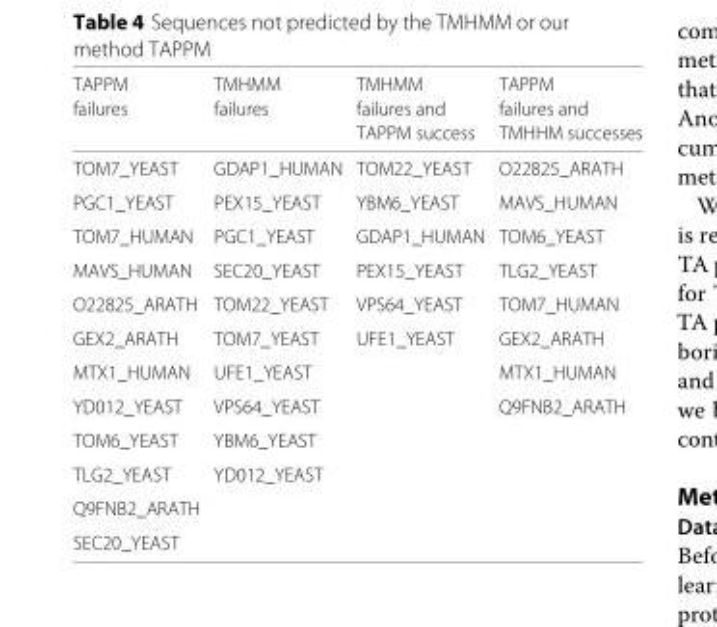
<table><thead><tr><td rowspan="3">TAPPM failures</td><td rowspan="3">TMHMM failures</td><td rowspan="3">TMHMM failures and TAPPM success</td><td rowspan="3">TAPPM failures and TMHHM successes</td></tr><tr></tr><tr></tr></thead><tbody><tr><td>TOM7_YEAST</td><td>GDAP1_HUMAN</td><td>TOM22_YEAST</td><td>O22825_ARATH</td></tr><tr><td>PGC1_YEAST</td><td>PEX15_YEAST</td><td>YBM6_YEAST</td><td>MAVS_HUMAN</td></tr><tr><td>TOM7_HUMAN</td><td>PGC1_YEAST</td><td>GDAP1_HUMAN</td><td>TOM6_YEAST</td></tr><tr><td>MAVS_HUMAN</td><td>SEC20_YEAST</td><td>PEX15_YEAST</td><td>TLG2_YEAST</td></tr><tr><td>O22825_ARATH</td><td>TOM22_YEAST</td><td>VPS64_YEAST</td><td>TOM7_HUMAN</td></tr><tr><td>GEX2_ARATH</td><td>TOM7_YEAST</td><td>UFE1_YEAST</td><td>GEX2_ARATH</td></tr><tr><td>MTX1_HUMAN</td><td>UFE1_YEAST</td><td></td><td>MTX1_HUMAN</td></tr><tr><td>YD012_YEAST</td><td>VPS64_YEAST</td><td></td><td>Q9FNB2_ARATH</td></tr><tr><td>TOM6_YEAST</td><td>YBM6_YEAST</td><td></td><td></td></tr><tr><td>TLG2_YEAST</td><td>YD012_YEAST</td><td></td><td></td></tr><tr><td colspan="4">Q9FNB2_ARATH</td></tr><tr><td>SEC20_YEAST</td><td></td><td></td><td></td></tr></tbody></table>